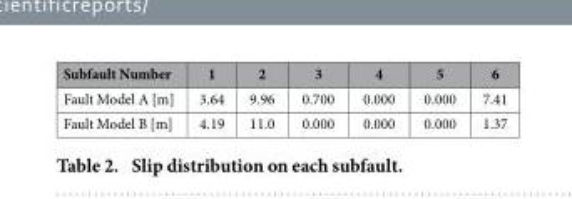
<table><thead><tr><td>Subfault Number</td><td>1</td><td>2</td><td>3</td><td>4</td><td>5</td><td>6</td></tr></thead><tbody><tr><td>Fault Model A [m]</td><td>3.64</td><td>9.96</td><td>0.700</td><td>0.000</td><td>0.000</td><td>7.41</td></tr><tr><td>Fault Model B [m]</td><td>4.19</td><td>11.0</td><td>0.000</td><td>0.000</td><td>0.000</td><td>1.37</td></tr></tbody></table>